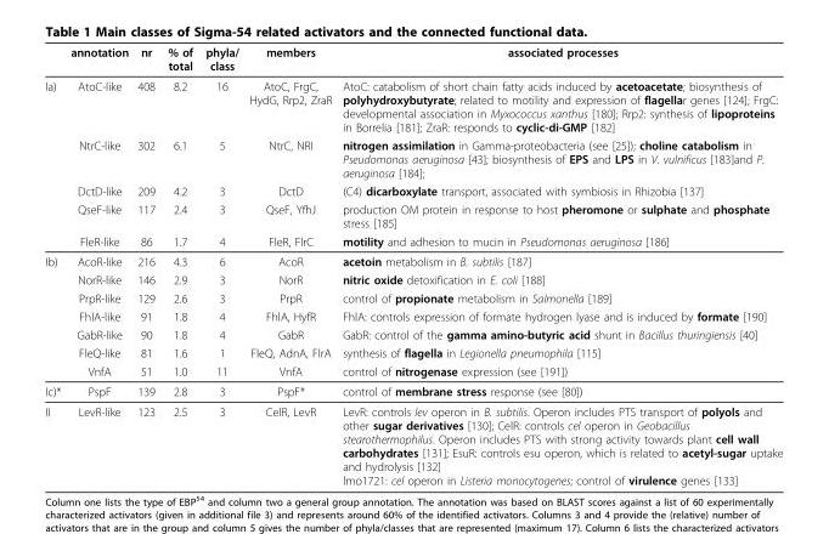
<table><thead><tr><td></td><td>annotation</td><td>nr</td><td>% of total</td><td>phyla/ class</td><td>members</td><td>associated processes</td></tr></thead><tbody><tr><td rowspan="5">Ia)</td><td>AtoC-like</td><td>408</td><td>8.2</td><td>16</td><td>AtoC, FrgC, HydG, Rrp2, ZraR</td><td>AtoC: catabolism of short chain fatty acids induced by acetoacetate; biosynthesis of polyhydroxybutyrate; related to motility and expression of flagellar genes [124]; FrgC: developmental association in Myxococcus xanthus [180]; Rrp2: synthesis of lipoproteins in Borrelia [181]; ZraR: responds to cyclic-di-GMP [182]</td></tr><tr><td>NtrC-like</td><td>302</td><td>6.1</td><td>5</td><td>NtrC, NRI</td><td>nitrogen assimilation in Gamma-proteobacteria (see [25]); choline catabolism in Pseudomonas aeruginosa [43]; biosynthesis of EPS and LPS in V. vulnificus [183]and P. aeruginosa [184];</td></tr><tr><td>DctD-like</td><td>209</td><td>4.2</td><td>3</td><td>DctD</td><td>(C4) dicarboxylate transport, associated with symbiosis in Rhizobia [137]</td></tr><tr><td>QseF-like</td><td>117</td><td>2.4</td><td>3</td><td>QseF, YfhJ</td><td>production OM protein in response to host pheromone or sulphate and phosphate stress [185]</td></tr><tr><td>FleR-like</td><td>86</td><td>1.7</td><td>4</td><td>FleR, FlrC</td><td>motility and adhesion to mucin in Pseudomonas aeruginosa [186]</td></tr><tr><td rowspan="7">Ib)</td><td>AcoR-like</td><td>216</td><td>4.3</td><td>6</td><td>AcoR</td><td>acetoin metabolism in B. subtilis [187]</td></tr><tr><td>NorR-like</td><td>146</td><td>2.9</td><td>3</td><td>NorR</td><td>nitric oxide detoxification in E. coli [188]</td></tr><tr><td>PrpR-like</td><td>129</td><td>2.6</td><td>3</td><td>PrpR</td><td>control of propionate metabolism in Salmonella [189]</td></tr><tr><td>FhlA-like</td><td>91</td><td>1.8</td><td>4</td><td>FhlA, HyfR</td><td>FhlA: controls expression of formate hydrogen lyase and is induced by formate [190]</td></tr><tr><td>GabR-like</td><td>90</td><td>1.8</td><td>4</td><td>GabR</td><td>GabR: control of the gamma amino-butyric acid shunt in Bacillus thuringiensis [40]</td></tr><tr><td>FleQ-like</td><td>81</td><td>1.6</td><td>1</td><td>FleQ, AdnA, FlrA</td><td>synthesis of flagella in Legionella pneumophila [115]</td></tr><tr><td>VnfA</td><td>51</td><td>1.0</td><td>11</td><td>VnfA</td><td>control of nitrogenase expression (see [191])</td></tr><tr><td>Ic)*</td><td>PspF</td><td>139</td><td>2.8</td><td>3</td><td>PspF*</td><td>control of membrane stress response (see [80])</td></tr><tr><td>II</td><td>LevR-like</td><td>123</td><td>2.5</td><td>3</td><td>CelR, LevR</td><td>LevR: controls lev operon in B. subtilis. Operon includes PTS transport of polyols and other sugar derivatives [130]; CelR: controls cel operon in Geobacillus stearothermophilus. Operon includes PTS with strong activity towards plant cell wall carbohydrates [131]; EsuR: controls esu operon, which is related to acetyl-sugar uptake and hydrolysis [132] lmo1721: cel operon in Listeria monocytogenes; control of virulence genes [133]</td></tr></tbody></table>